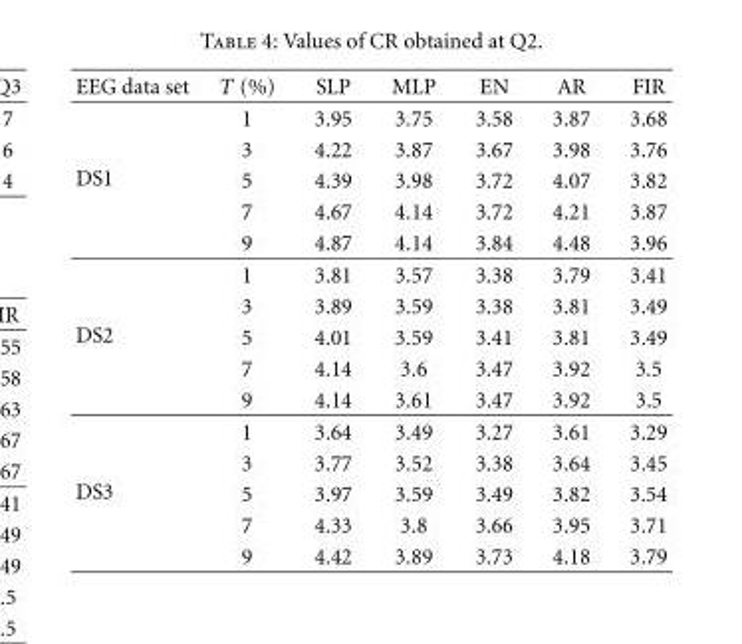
<table><thead><tr><td>EEG data set</td><td>T (%)</td><td>SLP</td><td>MLP</td><td>EN</td><td>AR</td><td>FIR</td></tr></thead><tbody><tr><td rowspan="5">DS1</td><td>1</td><td>3.95</td><td>3.75</td><td>3.58</td><td>3.87</td><td>3.68</td></tr><tr><td>3</td><td>4.22</td><td>3.87</td><td>3.67</td><td>3.98</td><td>3.76</td></tr><tr><td>5</td><td>4.39</td><td>3.98</td><td>3.72</td><td>4.07</td><td>3.82</td></tr><tr><td>7</td><td>4.67</td><td>4.14</td><td>3.72</td><td>4.21</td><td>3.87</td></tr><tr><td>9</td><td>4.87</td><td>4.14</td><td>3.84</td><td>4.48</td><td>3.96</td></tr><tr><td rowspan="5">DS2</td><td>1</td><td>3.81</td><td>3.57</td><td>3.38</td><td>3.79</td><td>3.41</td></tr><tr><td>3</td><td>3.89</td><td>3.59</td><td>3.38</td><td>3.81</td><td>3.49</td></tr><tr><td>5</td><td>4.01</td><td>3.59</td><td>3.41</td><td>3.81</td><td>3.49</td></tr><tr><td>7</td><td>4.14</td><td>3.6</td><td>3.47</td><td>3.92</td><td>3.5</td></tr><tr><td>9</td><td>4.14</td><td>3.61</td><td>3.47</td><td>3.92</td><td>3.5</td></tr><tr><td rowspan="5">DS3</td><td>1</td><td>3.64</td><td>3.49</td><td>3.27</td><td>3.61</td><td>3.29</td></tr><tr><td>3</td><td>3.77</td><td>3.52</td><td>3.38</td><td>3.64</td><td>3.45</td></tr><tr><td>5</td><td>3.97</td><td>3.59</td><td>3.49</td><td>3.82</td><td>3.54</td></tr><tr><td>7</td><td>4.33</td><td>3.8</td><td>3.66</td><td>3.95</td><td>3.71</td></tr><tr><td>9</td><td>4.42</td><td>3.89</td><td>3.73</td><td>4.18</td><td>3.79</td></tr></tbody></table>